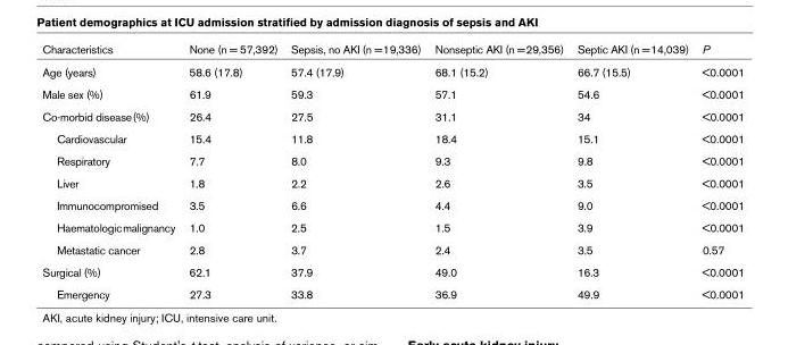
<table><thead><tr><td>Characteristics</td><td>None (n = 57,392)</td><td>Sepsis, no AKI (n = 19,336)</td><td>Nonseptic AKI (n = 29,356)</td><td>Septic AKI (n = 14,039)</td><td>P</td></tr></thead><tbody><tr><td>Age (years)</td><td>58.6 (17.8)</td><td>57.4 (17.9)</td><td>68.1 (15.2)</td><td>66.7 (15.5)</td><td>&lt;0.0001</td></tr><tr><td>Male sex (%)</td><td>61.9</td><td>59.3</td><td>57.1</td><td>54.6</td><td>&lt;0.0001</td></tr><tr><td>Co-morbid disease (%)</td><td>26.4</td><td>27.5</td><td>31.1</td><td>34</td><td>&lt;0.0001</td></tr><tr><td>Cardiovascular</td><td>15.4</td><td>11.8</td><td>18.4</td><td>15.1</td><td>&lt;0.0001</td></tr><tr><td>Respiratory</td><td>7.7</td><td>8.0</td><td>9.3</td><td>9.8</td><td>&lt;0.0001</td></tr><tr><td>Liver</td><td>1.8</td><td>2.2</td><td>2.6</td><td>3.5</td><td>&lt;0.0001</td></tr><tr><td>Immunocompromised</td><td>3.5</td><td>6.6</td><td>4.4</td><td>9.0</td><td>&lt;0.0001</td></tr><tr><td>Haematologic malignancy</td><td>1.0</td><td>2.5</td><td>1.5</td><td>3.9</td><td>&lt;0.0001</td></tr><tr><td>Metastatic cancer</td><td>2.8</td><td>3.7</td><td>2.4</td><td>3.5</td><td>0.57</td></tr><tr><td>Surgical (%)</td><td>62.1</td><td>37.9</td><td>49.0</td><td>16.3</td><td>&lt;0.0001</td></tr><tr><td>Emergency</td><td>27.3</td><td>33.8</td><td>36.9</td><td>49.9</td><td>&lt;0.0001</td></tr></tbody></table>